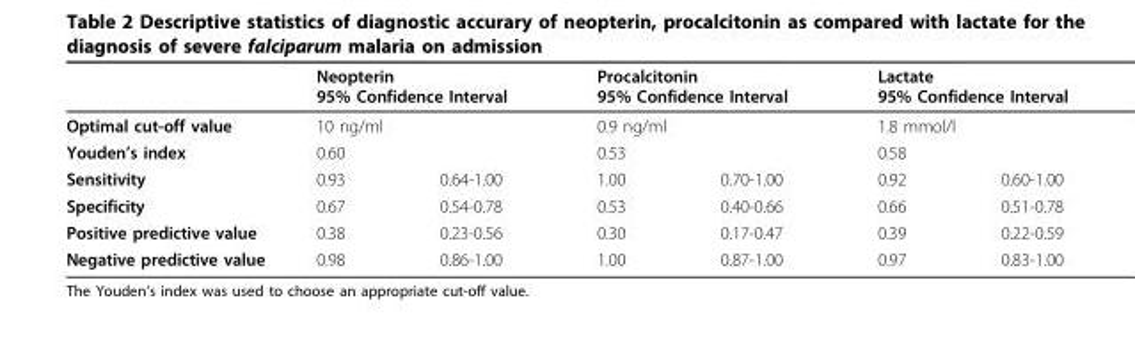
<table><thead><tr><td rowspan="3">Optimal cut-off value Youden’s index</td><td rowspan="2" colspan="2">Neopterin 95% Confidence Interval 10 ng/ml</td><td rowspan="2" colspan="2">Procalcitonin 95% Confidence Interval 0.9 ng/ml</td><td rowspan="2" colspan="2">Lactate 95% Confidence Interval 1.8 mmol/l</td></tr><tr></tr><tr><td>0.60</td><td></td><td>0.53</td><td></td><td>0.58</td><td></td></tr></thead><tbody><tr><td>Sensitivity</td><td>0.93</td><td>0.64-1.00</td><td>1.00</td><td>0.70-1.00</td><td>0.92</td><td>0.60-1.00</td></tr><tr><td>Specificity</td><td>0.67</td><td>0.54-0.78</td><td>0.53</td><td>0.40-0.66</td><td>0.66</td><td>0.51-0.78</td></tr><tr><td>Positive predictive value</td><td>0.38</td><td>0.23-0.56</td><td>0.30</td><td>0.17-0.47</td><td>0.39</td><td>0.22-0.59</td></tr><tr><td>Negative predictive value</td><td>0.98</td><td>0.86-1.00</td><td>1.00</td><td>0.87-1.00</td><td>0.97</td><td>0.83-1.00</td></tr></tbody></table>